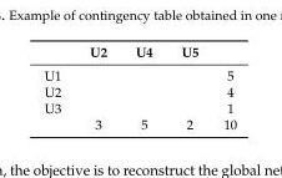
<table><thead><tr><td></td><td>U2</td><td>U4</td><td>U5</td><td></td></tr></thead><tbody><tr><td>U1</td><td></td><td></td><td></td><td>5</td></tr><tr><td>U2</td><td></td><td></td><td></td><td>4</td></tr><tr><td rowspan="2">U3</td><td></td><td></td><td></td><td>1</td></tr><tr><td>3</td><td>5</td><td>2</td><td>10</td></tr></tbody></table>